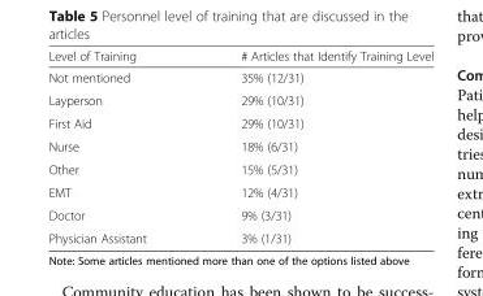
<table><thead><tr><td>Level of Training</td><td># Articles that Identify Training Level</td></tr></thead><tbody><tr><td>Not mentioned</td><td>35% (12/31)</td></tr><tr><td>Layperson</td><td>29% (10/31)</td></tr><tr><td>First Aid</td><td>29% (10/31)</td></tr><tr><td>Nurse</td><td>18% (6/31)</td></tr><tr><td>Other</td><td>15% (5/31)</td></tr><tr><td>EMT</td><td>12% (4/31)</td></tr><tr><td>Doctor</td><td>9% (3/31)</td></tr><tr><td>Physician Assistant</td><td>3% (1/31)</td></tr></tbody></table>